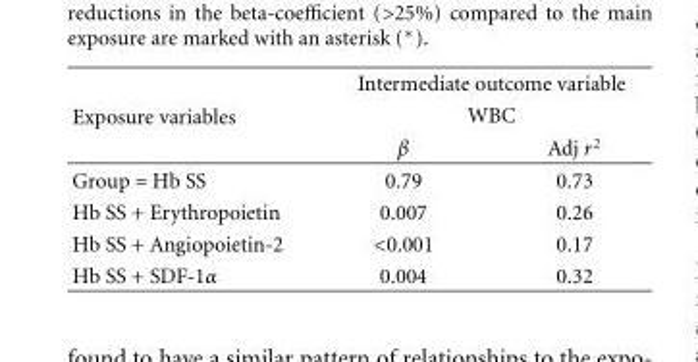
<table><thead><tr><td rowspan="3">Exposure variables</td><td rowspan="2" colspan="2">Intermediate outcome variable WBC</td></tr><tr></tr><tr><td>β</td><td>Adj r<sup>2</sup></td></tr></thead><tbody><tr><td>Group = Hb SS</td><td>0.79</td><td>0.73</td></tr><tr><td>Hb SS + Erythropoietin</td><td>0.007</td><td>0.26</td></tr><tr><td>Hb SS + Angiopoietin-2</td><td>&lt;0.001</td><td>0.17</td></tr><tr><td>Hb SS + SDF-1α</td><td>0.004</td><td>0.32</td></tr></tbody></table>